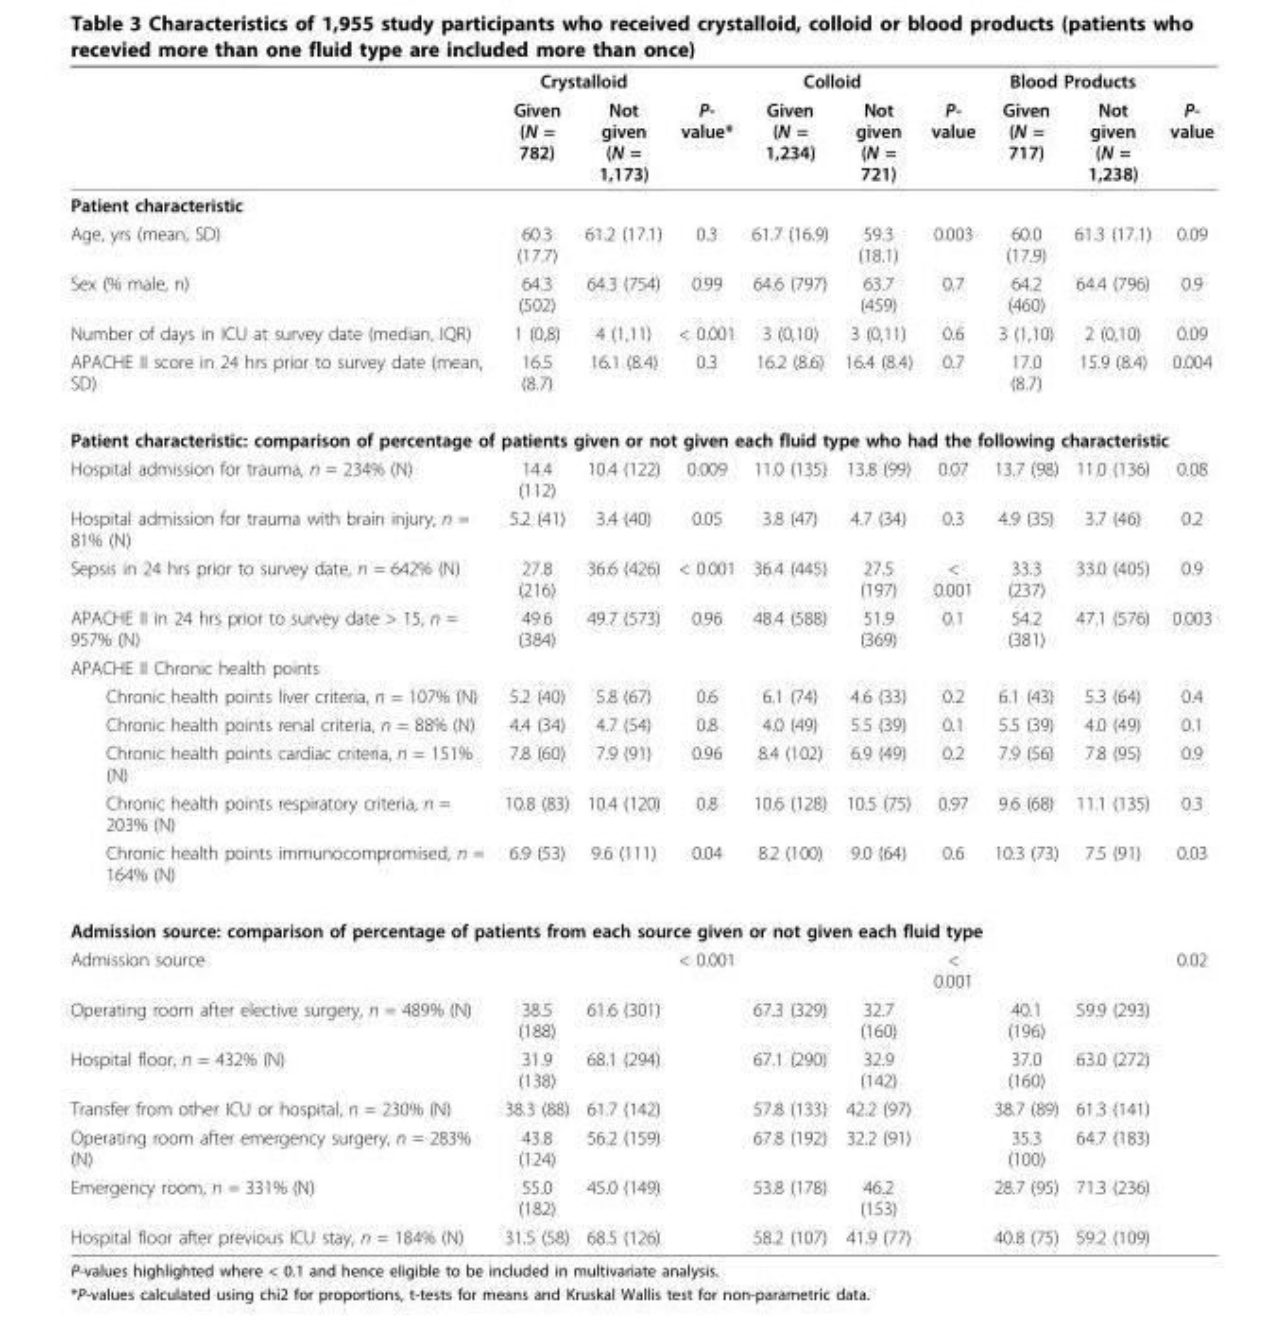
<table><thead><tr><td rowspan="2"></td><td colspan="2">Crystalloid</td><td rowspan="2">P- value*</td><td colspan="2">Colloid</td><td rowspan="2">P- value</td><td colspan="2">Blood Products</td><td rowspan="2">P- value</td></tr><tr><td>Given (N = 782)</td><td>Not given (N = 1,173)</td><td>Given (N = 1,234)</td><td>Not given (N = 721)</td><td>Given (N = 717)</td><td>Not given (N = 1,238)</td></tr></thead><tbody><tr><td colspan="10">Patient characteristic</td></tr><tr><td>Age, yrs (mean, SD)</td><td>60.3 (17.7)</td><td>61.2 (17.1)</td><td>0.3</td><td>61.7 (16.9)</td><td>59.3 (18.1)</td><td>0.003</td><td>60.0 (17.9)</td><td>61.3 (17.1)</td><td>0.09</td></tr><tr><td>Sex (% male, n)</td><td>64.3 (502)</td><td>64.3 (754)</td><td>0.99</td><td>64.6 (797)</td><td>63.7 (459)</td><td>0.7</td><td>64.2 (460)</td><td>64.4 (796)</td><td>0.9</td></tr><tr><td>Number of days in ICU at survey date (median, IQR)</td><td>1 (0,8)</td><td>4 (1,11)</td><td>&lt; 0.001</td><td>3 (0,10)</td><td>3 (0,11)</td><td>0.6</td><td>3 (1,10)</td><td>2 (0,10)</td><td>0.09</td></tr><tr><td>APACHE II score in 24 hrs prior to survey date (mean, SD)</td><td>16.5 (8.7)</td><td>16.1 (8.4)</td><td>0.3</td><td>16.2 (8.6)</td><td>16.4 (8.4)</td><td>0.7</td><td>17.0 (8.7)</td><td>15.9 (8.4)</td><td>0.004</td></tr><tr><td colspan="10">Patient characteristic: comparison of percentage of patients given or not given each fluid type who had the following characteristic</td></tr><tr><td>Hospital admission for trauma, n = 234% (N)</td><td>14.4 (112)</td><td>10.4 (122)</td><td>0.009</td><td>11.0 (135)</td><td>13.8 (99)</td><td>0.07</td><td>13.7 (98)</td><td>11.0 (136)</td><td>0.08</td></tr><tr><td>Hospital admission for trauma with brain injury, n = 81% (N)</td><td>5.2 (41)</td><td>3.4 (40)</td><td>0.05</td><td>3.8 (47)</td><td>4.7 (34)</td><td>0.3</td><td>4.9 (35)</td><td>3.7 (46)</td><td>0.2</td></tr><tr><td>Sepsis in 24 hrs prior to survey date, n = 642% (N)</td><td>27.8 (216)</td><td>36.6 (426)</td><td>&lt; 0.001</td><td>36.4 (445)</td><td>27.5 (197)</td><td>&lt; 0.001</td><td>33.3 (237)</td><td>33.0 (405)</td><td>0.9</td></tr><tr><td>APACHE II in 24 hrs prior to survey date &gt; 15, n = 957% (N)</td><td>49.6 (384)</td><td>49.7 (573)</td><td>0.96</td><td>48.4 (588)</td><td>51.9 (369)</td><td>0.1</td><td>54.2 (381)</td><td>47.1 (576)</td><td>0.003</td></tr><tr><td colspan="10">APACHE II Chronic health points</td></tr><tr><td>Chronic health points liver criteria, n = 107% (N)</td><td>5.2 (40)</td><td>5.8 (67)</td><td>0.6</td><td>6.1 (74)</td><td>4.6 (33)</td><td>0.2</td><td>6.1 (43)</td><td>5.3 (64)</td><td>0.4</td></tr><tr><td>Chronic health points renal criteria, n = 88% (N)</td><td>4.4 (34)</td><td>4.7 (54)</td><td>0.8</td><td>4.0 (49)</td><td>5.5 (39)</td><td>0.1</td><td>5.5 (39)</td><td>4.0 (49)</td><td>0.1</td></tr><tr><td>Chronic health points cardiac criteria, n = 151% (N)</td><td>7.8 (60)</td><td>7.9 (91)</td><td>0.96</td><td>8.4 (102)</td><td>6.9 (49)</td><td>0.2</td><td>7.9 (56)</td><td>7.8 (95)</td><td>0.9</td></tr><tr><td>Chronic health points respiratory criteria, n = 203% (N)</td><td>10.8 (83)</td><td>10.4 (120)</td><td>0.8</td><td>10.6 (128)</td><td>10.5 (75)</td><td>0.97</td><td>9.6 (68)</td><td>11.1 (135)</td><td>0.3</td></tr><tr><td>Chronic health points immunocompromised, n = 164% (N)</td><td>6.9 (53)</td><td>9.6 (111)</td><td>0.04</td><td>8.2 (100)</td><td>9.0 (64)</td><td>0.6</td><td>10.3 (73)</td><td>7.5 (91)</td><td>0.03</td></tr><tr><td colspan="10">Admission source: comparison of percentage of patients from each source given or not given each fluid type</td></tr><tr><td>Admission source</td><td></td><td></td><td>&lt; 0.001</td><td></td><td></td><td>&lt; 0.001</td><td></td><td></td><td>0.02</td></tr><tr><td>Operating room after elective surgery, n = 489% (N)</td><td>38.5 (188)</td><td>61.6 (301)</td><td></td><td>67.3 (329)</td><td>32.7 (160)</td><td></td><td>40.1 (196)</td><td>59.9 (293)</td><td></td></tr><tr><td>Hospital floor, n = 432% (N)</td><td>31.9 (138)</td><td>68.1 (294)</td><td></td><td>67.1 (290)</td><td>32.9 (142)</td><td></td><td>37.0 (160)</td><td>63.0 (272)</td><td></td></tr><tr><td>Transfer from other ICU or hospital, n = 230% (N)</td><td>38.3 (88)</td><td>61.7 (142)</td><td></td><td>57.8 (133)</td><td>42.2 (97)</td><td></td><td>38.7 (89)</td><td>61.3 (141)</td><td></td></tr><tr><td>Operating room after emergency surgery, n = 283% (N)</td><td>43.8 (124)</td><td>56.2 (159)</td><td></td><td>67.8 (192)</td><td>32.2 (91)</td><td></td><td>35.3 (100)</td><td>64.7 (183)</td><td></td></tr><tr><td>Emergency room, n = 331% (N)</td><td>55.0 (182)</td><td>45.0 (149)</td><td></td><td>53.8 (178)</td><td>46.2 (153)</td><td></td><td>28.7 (95)</td><td>71.3 (236)</td><td></td></tr><tr><td>Hospital floor after previous ICU stay, n = 184% (N)</td><td>31.5 (58)</td><td>68.5 (126)</td><td></td><td>58.2 (107)</td><td>41.9 (77)</td><td></td><td>40.8 (75)</td><td>59.2 (109)</td><td></td></tr></tbody></table>